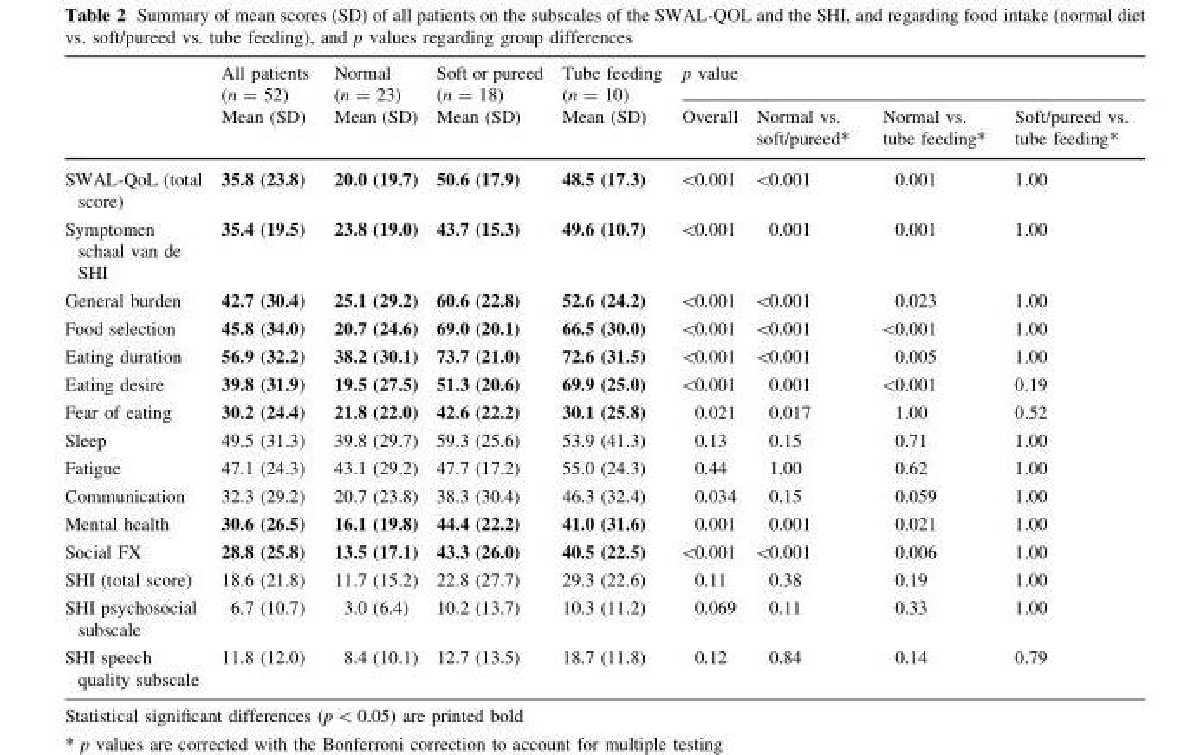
<table><thead><tr><td rowspan="2"></td><td rowspan="2">All patients (n = 52) Mean (SD)</td><td rowspan="2">Normal (n = 23) Mean (SD)</td><td rowspan="2">Soft or pureed (n = 18) Mean (SD)</td><td rowspan="2">Tube feeding (n = 10) Mean (SD)</td><td colspan="4">p value</td></tr><tr><td>Overall</td><td>Normal vs. soft/pureed*</td><td>Normal vs. tube feeding*</td><td>Soft/pureed vs. tube feeding*</td></tr></thead><tbody><tr><td>SWAL-QoL (total score)</td><td>35.8 (23.8)</td><td>20.0 (19.7)</td><td>50.6 (17.9)</td><td>48.5 (17.3)</td><td>&lt;0.001</td><td>&lt;0.001</td><td>0.001</td><td>1.00</td></tr><tr><td>Symptomen schaal van de SHI</td><td>35.4 (19.5)</td><td>23.8 (19.0)</td><td>43.7 (15.3)</td><td>49.6 (10.7)</td><td>&lt;0.001</td><td>0.001</td><td>0.001</td><td>1.00</td></tr><tr><td>General burden</td><td>42.7 (30.4)</td><td>25.1 (29.2)</td><td>60.6 (22.8)</td><td>52.6 (24.2)</td><td>&lt;0.001</td><td>&lt;0.001</td><td>0.023</td><td>1.00</td></tr><tr><td>Food selection</td><td>45.8 (34.0)</td><td>20.7 (24.6)</td><td>69.0 (20.1)</td><td>66.5 (30.0)</td><td>&lt;0.001</td><td>&lt;0.001</td><td>&lt;0.001</td><td>1.00</td></tr><tr><td>Eating duration</td><td>56.9 (32.2)</td><td>38.2 (30.1)</td><td>73.7 (21.0)</td><td>72.6 (31.5)</td><td>&lt;0.001</td><td>&lt;0.001</td><td>0.005</td><td>1.00</td></tr><tr><td>Eating desire</td><td>39.8 (31.9)</td><td>19.5 (27.5)</td><td>51.3 (20.6)</td><td>69.9 (25.0)</td><td>&lt;0.001</td><td>0.001</td><td>&lt;0.001</td><td>0.19</td></tr><tr><td>Fear of eating</td><td>30.2 (24.4)</td><td>21.8 (22.0)</td><td>42.6 (22.2)</td><td>30.1 (25.8)</td><td>0.021</td><td>0.017</td><td>1.00</td><td>0.52</td></tr><tr><td>Sleep</td><td>49.5 (31.3)</td><td>39.8 (29.7)</td><td>59.3 (25.6)</td><td>53.9 (41.3)</td><td>0.13</td><td>0.15</td><td>0.71</td><td>1.00</td></tr><tr><td>Fatigue</td><td>47.1 (24.3)</td><td>43.1 (29.2)</td><td>47.7 (17.2)</td><td>55.0 (24.3)</td><td>0.44</td><td>1.00</td><td>0.62</td><td>1.00</td></tr><tr><td>Communication</td><td>32.3 (29.2)</td><td>20.7 (23.8)</td><td>38.3 (30.4)</td><td>46.3 (32.4)</td><td>0.034</td><td>0.15</td><td>0.059</td><td>1.00</td></tr><tr><td>Mental health</td><td>30.6 (26.5)</td><td>16.1 (19.8)</td><td>44.4 (22.2)</td><td>41.0 (31.6)</td><td>0.001</td><td>0.001</td><td>0.021</td><td>1.00</td></tr><tr><td>Social FX</td><td>28.8 (25.8)</td><td>13.5 (17.1)</td><td>43.3 (26.0)</td><td>40.5 (22.5)</td><td>&lt;0.001</td><td>&lt;0.001</td><td>0.006</td><td>1.00</td></tr><tr><td>SHI (total score)</td><td>18.6 (21.8)</td><td>11.7 (15.2)</td><td>22.8 (27.7)</td><td>29.3 (22.6)</td><td>0.11</td><td>0.38</td><td>0.19</td><td>1.00</td></tr><tr><td>SHI psychosocial subscale</td><td>6.7 (10.7)</td><td>3.0 (6.4)</td><td>10.2 (13.7)</td><td>10.3 (11.2)</td><td>0.069</td><td>0.11</td><td>0.33</td><td>1.00</td></tr><tr><td>SHI speech quality subscale</td><td>11.8 (12.0)</td><td>8.4 (10.1)</td><td>12.7 (13.5)</td><td>18.7 (11.8)</td><td>0.12</td><td>0.84</td><td>0.14</td><td>0.79</td></tr></tbody></table>